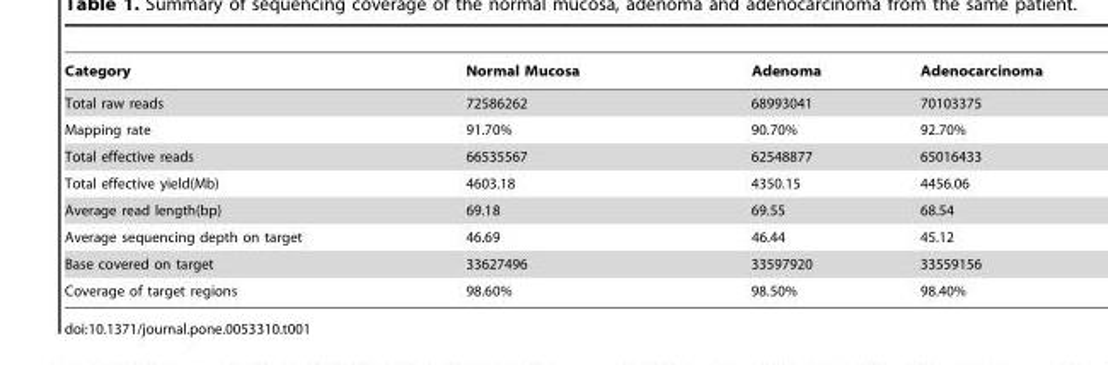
<table><thead><tr><td>Category</td><td>Normal Mucosa</td><td>Adenoma</td><td>Adenocarcinoma</td></tr></thead><tbody><tr><td>Total raw reads</td><td>72586262</td><td>68993041</td><td>70103375</td></tr><tr><td>Mapping rate</td><td>91.70%</td><td>90.70%</td><td>92.70%</td></tr><tr><td>Total effective reads</td><td>66535567</td><td>62548877</td><td>65016433</td></tr><tr><td>Total effective yield(Mb)</td><td>4603.18</td><td>4350.15</td><td>4456.06</td></tr><tr><td>Average read length(bp)</td><td>69.18</td><td>69.55</td><td>68.54</td></tr><tr><td>Average sequencing depth on target</td><td>46.69</td><td>46.44</td><td>45.12</td></tr><tr><td>Base covered on target</td><td>33627496</td><td>33597920</td><td>33559156</td></tr><tr><td>Coverage of target regions</td><td>98.60%</td><td>98.50%</td><td>98.40%</td></tr></tbody></table>